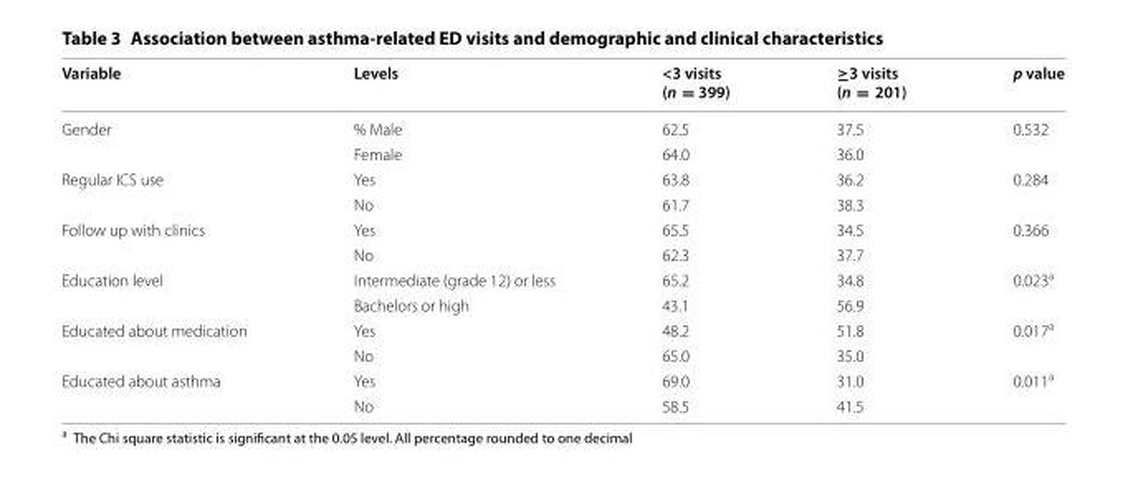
<table><thead><tr><td>Variable</td><td>Levels</td><td>&lt;3 visits (n = 399)</td><td>≥3 visits (n = 201)</td><td>p value</td></tr></thead><tbody><tr><td rowspan="2">Gender</td><td>% Male</td><td>62.5</td><td>37.5</td><td>0.532</td></tr><tr><td>Female</td><td>64.0</td><td>36.0</td><td></td></tr><tr><td rowspan="2">Regular ICS use</td><td>Yes</td><td>63.8</td><td>36.2</td><td>0.284</td></tr><tr><td>No</td><td>61.7</td><td>38.3</td><td></td></tr><tr><td rowspan="2">Follow up with clinics</td><td>Yes</td><td>65.5</td><td>34.5</td><td>0.366</td></tr><tr><td>No</td><td>62.3</td><td>37.7</td><td></td></tr><tr><td rowspan="2">Education level</td><td>Intermediate (grade 12) or less</td><td>65.2</td><td>34.8</td><td>0.023<sup>a</sup></td></tr><tr><td>Bachelors or high</td><td>43.1</td><td>56.9</td><td></td></tr><tr><td rowspan="2">Educated about medication</td><td>Yes</td><td>48.2</td><td>51.8</td><td>0.017<sup>a</sup></td></tr><tr><td>No</td><td>65.0</td><td>35.0</td><td></td></tr><tr><td rowspan="2">Educated about asthma</td><td>Yes</td><td>69.0</td><td>31.0</td><td>0.011<sup>a</sup></td></tr><tr><td>No</td><td>58.5</td><td>41.5</td><td></td></tr></tbody></table>